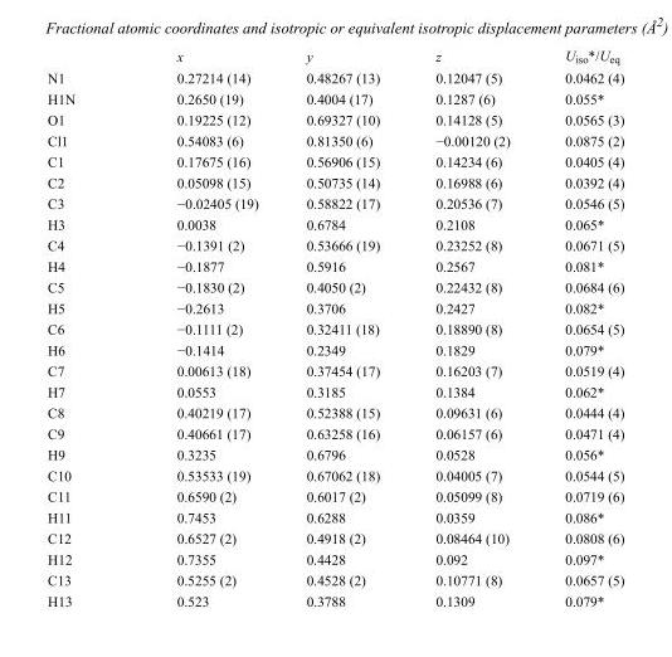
<table><thead><tr><td></td><td>x</td><td>y</td><td>z</td><td>U<sub>iso</sub>*/U<sub>eq</sub></td></tr></thead><tbody><tr><td>N1</td><td>0.27214 (14)</td><td>0.48267 (13)</td><td>0.12047 (5)</td><td>0.0462 (4)</td></tr><tr><td>H1N</td><td>0.2650 (19)</td><td>0.4004 (17)</td><td>0.1287 (6)</td><td>0.055*</td></tr><tr><td>O1</td><td>0.19225 (12)</td><td>0.69327 (10)</td><td>0.14128 (5)</td><td>0.0565 (3)</td></tr><tr><td>Cl1</td><td>0.54083 (6)</td><td>0.81350 (6)</td><td>−0.00120 (2)</td><td>0.0875 (2)</td></tr><tr><td>C1</td><td>0.17675 (16)</td><td>0.56906 (15)</td><td>0.14234 (6)</td><td>0.0405 (4)</td></tr><tr><td>C2</td><td>0.05098 (15)</td><td>0.50735 (14)</td><td>0.16988 (6)</td><td>0.0392 (4)</td></tr><tr><td>C3</td><td>−0.02405 (19)</td><td>0.58822 (17)</td><td>0.20536 (7)</td><td>0.0546 (5)</td></tr><tr><td>H3</td><td>0.0038</td><td>0.6784</td><td>0.2108</td><td>0.065*</td></tr><tr><td>C4</td><td>−0.1391 (2)</td><td>0.53666 (19)</td><td>0.23252 (8)</td><td>0.0671 (5)</td></tr><tr><td>H4</td><td>−0.1877</td><td>0.5916</td><td>0.2567</td><td>0.081*</td></tr><tr><td>C5</td><td>−0.1830 (2)</td><td>0.4050 (2)</td><td>0.22432 (8)</td><td>0.0684 (6)</td></tr><tr><td>H5</td><td>−0.2613</td><td>0.3706</td><td>0.2427</td><td>0.082*</td></tr><tr><td>C6</td><td>−0.1111 (2)</td><td>0.32411 (18)</td><td>0.18890 (8)</td><td>0.0654 (5)</td></tr><tr><td>H6</td><td>−0.1414</td><td>0.2349</td><td>0.1829</td><td>0.079*</td></tr><tr><td>C7</td><td>0.00613 (18)</td><td>0.37454 (17)</td><td>0.16203 (7)</td><td>0.0519 (4)</td></tr><tr><td>H7</td><td>0.0553</td><td>0.3185</td><td>0.1384</td><td>0.062*</td></tr><tr><td>C8</td><td>0.40219 (17)</td><td>0.52388 (15)</td><td>0.09631 (6)</td><td>0.0444 (4)</td></tr><tr><td>C9</td><td>0.40661 (17)</td><td>0.63258 (16)</td><td>0.06157 (6)</td><td>0.0471 (4)</td></tr><tr><td>H9</td><td>0.3235</td><td>0.6796</td><td>0.0528</td><td>0.056*</td></tr><tr><td>C10</td><td>0.53533 (19)</td><td>0.67062 (18)</td><td>0.04005 (7)</td><td>0.0544 (5)</td></tr><tr><td>C11</td><td>0.6590 (2)</td><td>0.6017 (2)</td><td>0.05099 (8)</td><td>0.0719 (6)</td></tr><tr><td>H11</td><td>0.7453</td><td>0.6288</td><td>0.0359</td><td>0.086*</td></tr><tr><td>C12</td><td>0.6527 (2)</td><td>0.4918 (2)</td><td>0.08464 (10)</td><td>0.0808 (6)</td></tr><tr><td>H12</td><td>0.7355</td><td>0.4428</td><td>0.092</td><td>0.097*</td></tr><tr><td>C13</td><td>0.5255 (2)</td><td>0.4528 (2)</td><td>0.10771 (8)</td><td>0.0657 (5)</td></tr><tr><td>H13</td><td>0.523</td><td>0.3788</td><td>0.1309</td><td>0.079*</td></tr></tbody></table>